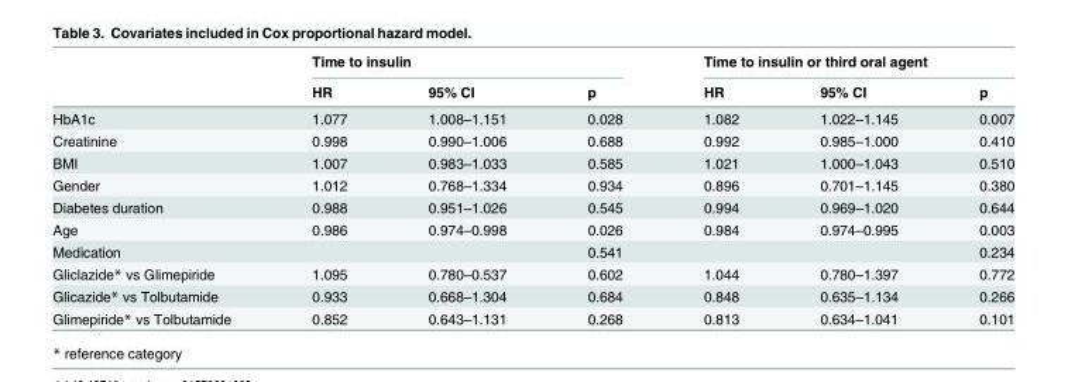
<table><thead><tr><td rowspan="2"></td><td colspan="3">Time to insulin</td><td colspan="3">Time to insulin or third oral agent</td></tr><tr><td>HR</td><td>95% CI</td><td>p</td><td>HR</td><td>95% CI</td><td>p</td></tr></thead><tbody><tr><td>HbA1c</td><td>1.077</td><td>1.008–1.151</td><td>0.028</td><td>1.082</td><td>1.022–1.145</td><td>0.007</td></tr><tr><td>Creatinine</td><td>0.998</td><td>0.990–1.006</td><td>0.688</td><td>0.992</td><td>0.985–1.000</td><td>0.410</td></tr><tr><td>BMI</td><td>1.007</td><td>0.983–1.033</td><td>0.585</td><td>1.021</td><td>1.000–1.043</td><td>0.510</td></tr><tr><td>Gender</td><td>1.012</td><td>0.768–1.334</td><td>0.934</td><td>0.896</td><td>0.701–1.145</td><td>0.380</td></tr><tr><td>Diabetes duration</td><td>0.988</td><td>0.951–1.026</td><td>0.545</td><td>0.994</td><td>0.969–1.020</td><td>0.644</td></tr><tr><td>Age</td><td>0.986</td><td>0.974–0.998</td><td>0.026</td><td>0.984</td><td>0.974–0.995</td><td>0.003</td></tr><tr><td>Medication</td><td></td><td></td><td>0.541</td><td></td><td></td><td>0.234</td></tr><tr><td>Gliclazide* vs Glimepiride</td><td>1.095</td><td>0.780–0.537</td><td>0.602</td><td>1.044</td><td>0.780–1.397</td><td>0.772</td></tr><tr><td>Glicazide* vs Tolbutamide</td><td>0.933</td><td>0.668–1.304</td><td>0.684</td><td>0.848</td><td>0.635–1.134</td><td>0.266</td></tr><tr><td>Glimepiride* vs Tolbutamide</td><td>0.852</td><td>0.643–1.131</td><td>0.268</td><td>0.813</td><td>0.634–1.041</td><td>0.101</td></tr></tbody></table>